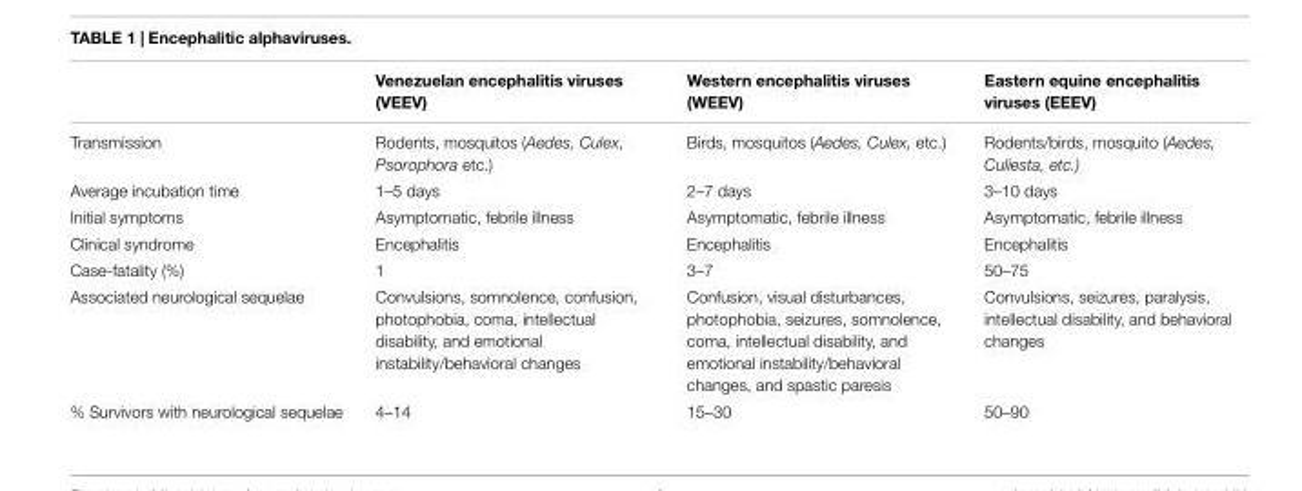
<table><thead><tr><td></td><td>Venezuelan encephalitis viruses (VEEV)</td><td>Western encephalitis viruses (WEEV)</td><td>Eastern equine encephalitis viruses (EEEV)</td></tr></thead><tbody><tr><td>Transmission</td><td>Rodents, mosquitos (Aedes, Culex, Psorophora etc.)</td><td>Birds, mosquitos (Aedes, Culex, etc.)</td><td>Rodents/birds, mosquito (Aedes, Culiesta, etc.)</td></tr><tr><td>Average incubation time</td><td>1–5 days</td><td>2–7 days</td><td>3–10 days</td></tr><tr><td>Initial symptoms</td><td>Asymptomatic, febrile illness</td><td>Asymptomatic, febrile illness</td><td>Asymptomatic, febrile illness</td></tr><tr><td>Clinical syndrome</td><td>Encephalitis</td><td>Encephalitis</td><td>Encephalitis</td></tr><tr><td>Case-fatality (%)</td><td>1</td><td>3–7</td><td>50–75</td></tr><tr><td>Associated neurological sequelae</td><td>Convulsions, somnolence, confusion, photophobia, coma, intellectual disability, and emotional instability/behavioral changes</td><td>Confusion, visual disturbances, photophobia, seizures, somnolence, coma, intellectual disability, and emotional instability/behavioral changes, and spastic paresis</td><td>Convulsions, seizures, paralysis, intellectual disability, and behavioral changes</td></tr><tr><td>% Survivors with neurological sequelae</td><td>4–14</td><td>15–30</td><td>50–90</td></tr></tbody></table>